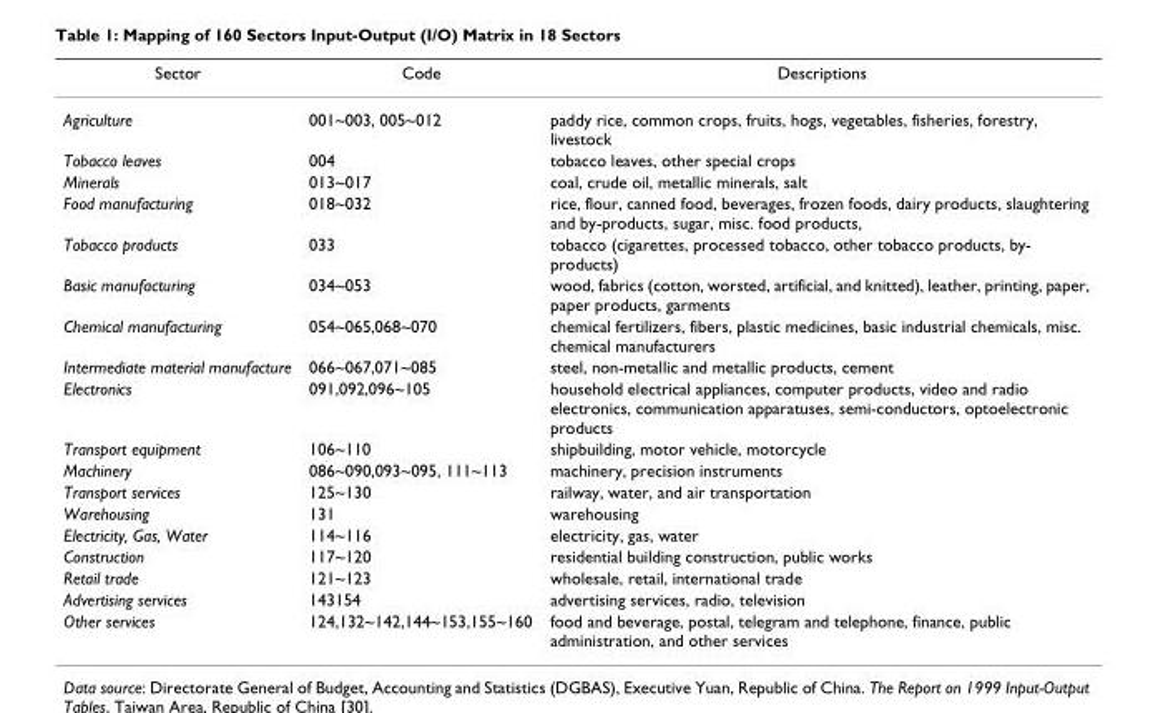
<table><thead><tr><td>Sector</td><td>Code</td><td>Descriptions</td></tr></thead><tbody><tr><td>Agriculture</td><td>001~003, 005~012</td><td>paddy rice, common crops, fruits, hogs, vegetables, fisheries, forestry, livestock</td></tr><tr><td>Tobacco leaves</td><td>004</td><td>tobacco leaves, other special crops</td></tr><tr><td>Minerals</td><td>013~017</td><td>coal, crude oil, metallic minerals, salt</td></tr><tr><td>Food manufacturing</td><td>018~032</td><td>rice, flour, canned food, beverages, frozen foods, dairy products, slaughtering and by-products, sugar, misc. food products,</td></tr><tr><td>Tobacco products</td><td>033</td><td>tobacco (cigarettes, processed tobacco, other tobacco products, by- products)</td></tr><tr><td>Basic manufacturing</td><td>034~053</td><td>wood, fabrics (cotton, worsted, artificial, and knitted), leather, printing, paper, paper products, garments</td></tr><tr><td>Chemical manufacturing</td><td>054~065,068~070</td><td>chemical fertilizers, fibers, plastic medicines, basic industrial chemicals, misc. chemical manufacturers</td></tr><tr><td>Intermediate material manufacture</td><td>066~067,071~085</td><td>steel, non-metallic and metallic products, cement</td></tr><tr><td>Electronics</td><td>091,092,096~105</td><td>household electrical appliances, computer products, video and radio electronics, communication apparatuses, semi-conductors, optoelectronic products</td></tr><tr><td>Transport equipment</td><td>106~110</td><td>shipbuilding, motor vehicle, motorcycle</td></tr><tr><td>Machinery</td><td>086~090,093~095, 111~113</td><td>machinery, precision instruments</td></tr><tr><td>Transport services</td><td>125~130</td><td>railway, water, and air transportation</td></tr><tr><td>Warehousing</td><td>131</td><td>warehousing</td></tr><tr><td>Electricity, Gas, Water</td><td>114~116</td><td>electricity, gas, water</td></tr><tr><td>Construction</td><td>117~120</td><td>residential building construction, public works</td></tr><tr><td>Retail trade</td><td>121~123</td><td>wholesale, retail, international trade</td></tr><tr><td>Advertising services</td><td>143154</td><td>advertising services, radio, television</td></tr><tr><td>Other services</td><td>124,132~142,144~153,155~160</td><td>food and beverage, postal, telegram and telephone, finance, public administration, and other services</td></tr></tbody></table>